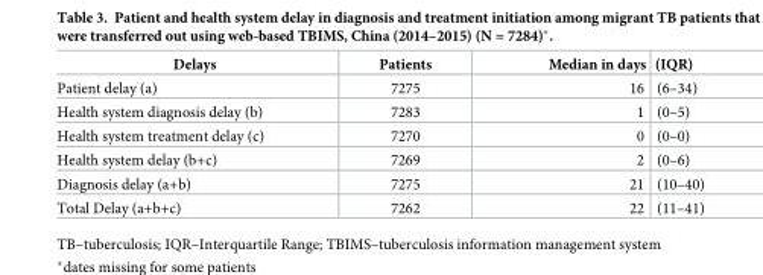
<table><thead><tr><td>Delays</td><td>Patients</td><td>Median in days</td><td>(IQR)</td></tr></thead><tbody><tr><td>Patient delay (a)</td><td>7275</td><td>16</td><td>(6–34)</td></tr><tr><td>Health system diagnosis delay (b)</td><td>7283</td><td>1</td><td>(0–5)</td></tr><tr><td>Health system treatment delay (c)</td><td>7270</td><td>0</td><td>(0–0)</td></tr><tr><td>Health system delay (b+c)</td><td>7269</td><td>2</td><td>(0–6)</td></tr><tr><td>Diagnosis delay (a+b)</td><td>7275</td><td>21</td><td>(10–40)</td></tr><tr><td>Total Delay (a+b+c)</td><td>7262</td><td>22</td><td>(11–41)</td></tr></tbody></table>